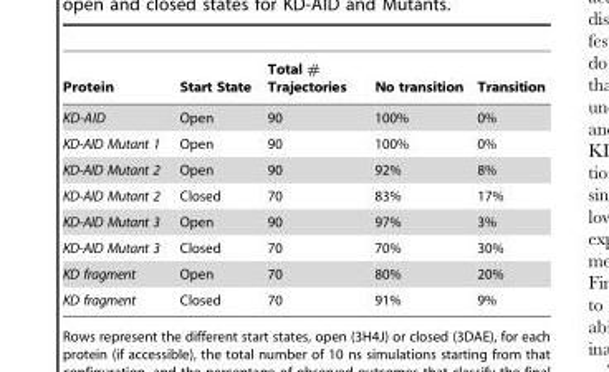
<table><thead><tr><td>Protein</td><td>Start State</td><td>Total # Trajectories</td><td>No transition</td><td>Transition</td></tr></thead><tbody><tr><td>KD-AID</td><td>Open</td><td>90</td><td>100%</td><td>0%</td></tr><tr><td>KD-AID Mutant 1</td><td>Open</td><td>90</td><td>100%</td><td>0%</td></tr><tr><td>KD-AID Mutant 2</td><td>Open</td><td>90</td><td>92%</td><td>8%</td></tr><tr><td>KD-AID Mutant 2</td><td>Closed</td><td>70</td><td>83%</td><td>17%</td></tr><tr><td>KD-AID Mutant 3</td><td>Open</td><td>90</td><td>97%</td><td>3%</td></tr><tr><td>KD-AID Mutant 3</td><td>Closed</td><td>70</td><td>70%</td><td>30%</td></tr><tr><td>KD fragment</td><td>Open</td><td>70</td><td>80%</td><td>20%</td></tr><tr><td>KD fragment</td><td>Closed</td><td>70</td><td>91%</td><td>9%</td></tr></tbody></table>